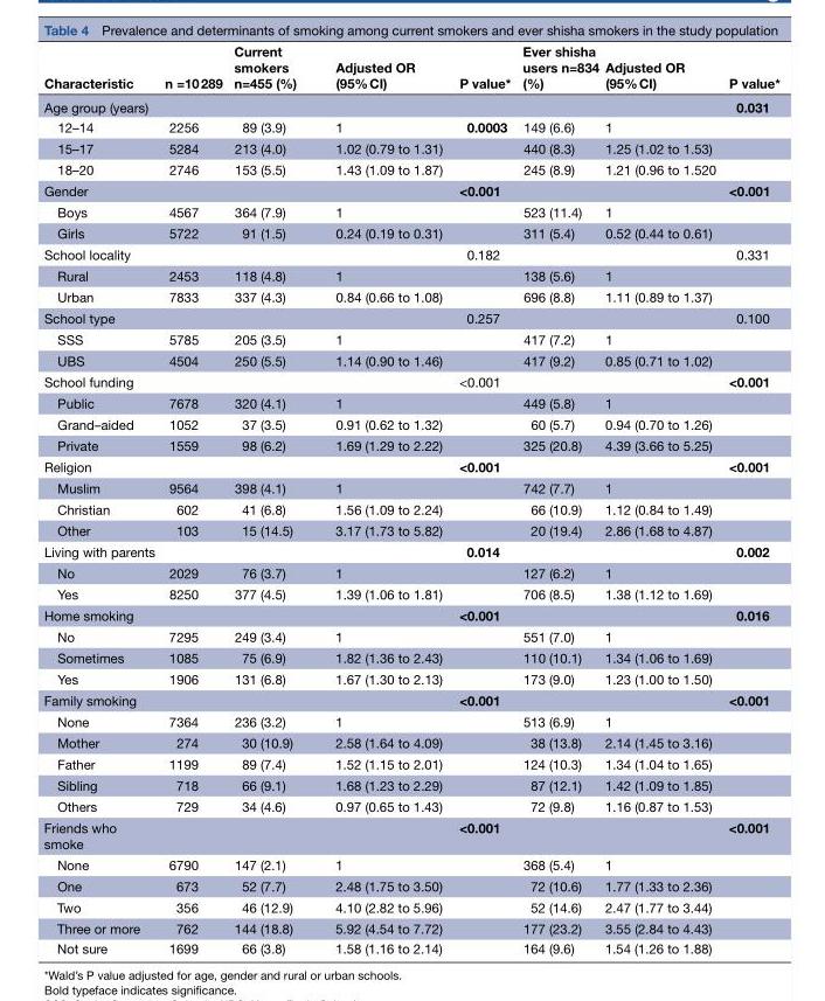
<table><thead><tr><td>Characteristic</td><td>n =10 289</td><td>Current smokers n=455 (%)</td><td>Adjusted OR (95% CI)</td><td>P value*</td><td>Ever shisha users n=834 (%)</td><td>Adjusted OR (95% CI)</td><td>P value*</td></tr></thead><tbody><tr><td>Age group (years)</td><td></td><td></td><td></td><td></td><td></td><td></td><td>0.031</td></tr><tr><td>12–14</td><td>2256</td><td>89 (3.9)</td><td>1</td><td>0.0003</td><td>149 (6.6)</td><td>1</td><td></td></tr><tr><td>15–17</td><td>5284</td><td>213 (4.0)</td><td>1.02 (0.79 to 1.31)</td><td></td><td>440 (8.3)</td><td>1.25 (1.02 to 1.53)</td><td></td></tr><tr><td>18–20</td><td>2746</td><td>153 (5.5)</td><td>1.43 (1.09 to 1.87)</td><td></td><td>245 (8.9)</td><td>1.21 (0.96 to 1.520</td><td></td></tr><tr><td>Gender</td><td></td><td></td><td></td><td>&lt;0.001</td><td></td><td></td><td>&lt;0.001</td></tr><tr><td>Boys</td><td>4567</td><td>364 (7.9)</td><td>1</td><td></td><td>523 (11.4)</td><td>1</td><td></td></tr><tr><td>Girls</td><td>5722</td><td>91 (1.5)</td><td>0.24 (0.19 to 0.31)</td><td></td><td>311 (5.4)</td><td>0.52 (0.44 to 0.61)</td><td></td></tr><tr><td>School locality</td><td></td><td></td><td></td><td>0.182</td><td></td><td></td><td>0.331</td></tr><tr><td>Rural</td><td>2453</td><td>118 (4.8)</td><td>1</td><td></td><td>138 (5.6)</td><td>1</td><td></td></tr><tr><td>Urban</td><td>7833</td><td>337 (4.3)</td><td>0.84 (0.66 to 1.08)</td><td></td><td>696 (8.8)</td><td>1.11 (0.89 to 1.37)</td><td></td></tr><tr><td>School type</td><td></td><td></td><td></td><td>0.257</td><td></td><td></td><td>0.100</td></tr><tr><td>SSS</td><td>5785</td><td>205 (3.5)</td><td>1</td><td></td><td>417 (7.2)</td><td>1</td><td></td></tr><tr><td>UBS</td><td>4504</td><td>250 (5.5)</td><td>1.14 (0.90 to 1.46)</td><td></td><td>417 (9.2)</td><td>0.85 (0.71 to 1.02)</td><td></td></tr><tr><td>School funding</td><td></td><td></td><td></td><td>&lt;0.001</td><td></td><td></td><td>&lt;0.001</td></tr><tr><td>Public</td><td>7678</td><td>320 (4.1)</td><td>1</td><td></td><td>449 (5.8)</td><td>1</td><td></td></tr><tr><td>Grand–aided</td><td>1052</td><td>37 (3.5)</td><td>0.91 (0.62 to 1.32)</td><td></td><td>60 (5.7)</td><td>0.94 (0.70 to 1.26)</td><td></td></tr><tr><td>Private</td><td>1559</td><td>98 (6.2)</td><td>1.69 (1.29 to 2.22)</td><td></td><td>325 (20.8)</td><td>4.39 (3.66 to 5.25)</td><td></td></tr><tr><td>Religion</td><td></td><td></td><td></td><td>&lt;0.001</td><td></td><td></td><td>&lt;0.001</td></tr><tr><td>Muslim</td><td>9564</td><td>398 (4.1)</td><td>1</td><td></td><td>742 (7.7)</td><td>1</td><td></td></tr><tr><td>Christian</td><td>602</td><td>41 (6.8)</td><td>1.56 (1.09 to 2.24)</td><td></td><td>66 (10.9)</td><td>1.12 (0.84 to 1.49)</td><td></td></tr><tr><td>Other</td><td>103</td><td>15 (14.5)</td><td>3.17 (1.73 to 5.82)</td><td></td><td>20 (19.4)</td><td>2.86 (1.68 to 4.87)</td><td></td></tr><tr><td>Living with parents</td><td></td><td></td><td></td><td>0.014</td><td></td><td></td><td>0.002</td></tr><tr><td>No</td><td>2029</td><td>76 (3.7)</td><td>1</td><td></td><td>127 (6.2)</td><td>1</td><td></td></tr><tr><td>Yes</td><td>8250</td><td>377 (4.5)</td><td>1.39 (1.06 to 1.81)</td><td></td><td>706 (8.5)</td><td>1.38 (1.12 to 1.69)</td><td></td></tr><tr><td>Home smoking</td><td></td><td></td><td></td><td>&lt;0.001</td><td></td><td></td><td>0.016</td></tr><tr><td>No</td><td>7295</td><td>249 (3.4)</td><td>1</td><td></td><td>551 (7.0)</td><td>1</td><td></td></tr><tr><td>Sometimes</td><td>1085</td><td>75 (6.9)</td><td>1.82 (1.36 to 2.43)</td><td></td><td>110 (10.1)</td><td>1.34 (1.06 to 1.69)</td><td></td></tr><tr><td>Yes</td><td>1906</td><td>131 (6.8)</td><td>1.67 (1.30 to 2.13)</td><td></td><td>173 (9.0)</td><td>1.23 (1.00 to 1.50)</td><td></td></tr><tr><td>Family smoking</td><td></td><td></td><td></td><td>&lt;0.001</td><td></td><td></td><td>&lt;0.001</td></tr><tr><td>None</td><td>7364</td><td>236 (3.2)</td><td>1</td><td></td><td>513 (6.9)</td><td>1</td><td></td></tr><tr><td>Mother</td><td>274</td><td>30 (10.9)</td><td>2.58 (1.64 to 4.09)</td><td></td><td>38 (13.8)</td><td>2.14 (1.45 to 3.16)</td><td></td></tr><tr><td>Father</td><td>1199</td><td>89 (7.4)</td><td>1.52 (1.15 to 2.01)</td><td></td><td>124 (10.3)</td><td>1.34 (1.04 to 1.65)</td><td></td></tr><tr><td>Sibling</td><td>718</td><td>66 (9.1)</td><td>1.68 (1.23 to 2.29)</td><td></td><td>87 (12.1)</td><td>1.42 (1.09 to 1.85)</td><td></td></tr><tr><td>Others</td><td>729</td><td>34 (4.6)</td><td>0.97 (0.65 to 1.43)</td><td></td><td>72 (9.8)</td><td>1.16 (0.87 to 1.53)</td><td></td></tr><tr><td>Friends who smoke</td><td></td><td></td><td></td><td>&lt;0.001</td><td></td><td></td><td>&lt;0.001</td></tr><tr><td>None</td><td>6790</td><td>147 (2.1)</td><td>1</td><td></td><td>368 (5.4)</td><td>1</td><td></td></tr><tr><td>One</td><td>673</td><td>52 (7.7)</td><td>2.48 (1.75 to 3.50)</td><td></td><td>72 (10.6)</td><td>1.77 (1.33 to 2.36)</td><td></td></tr><tr><td>Two</td><td>356</td><td>46 (12.9)</td><td>4.10 (2.82 to 5.96)</td><td></td><td>52 (14.6)</td><td>2.47 (1.77 to 3.44)</td><td></td></tr><tr><td>Three or more</td><td>762</td><td>144 (18.8)</td><td>5.92 (4.54 to 7.72)</td><td></td><td>177 (23.2)</td><td>3.55 (2.84 to 4.43)</td><td></td></tr><tr><td>Not sure</td><td>1699</td><td>66 (3.8)</td><td>1.58 (1.16 to 2.14)</td><td></td><td>164 (9.6)</td><td>1.54 (1.26 to 1.88)</td><td></td></tr></tbody></table>